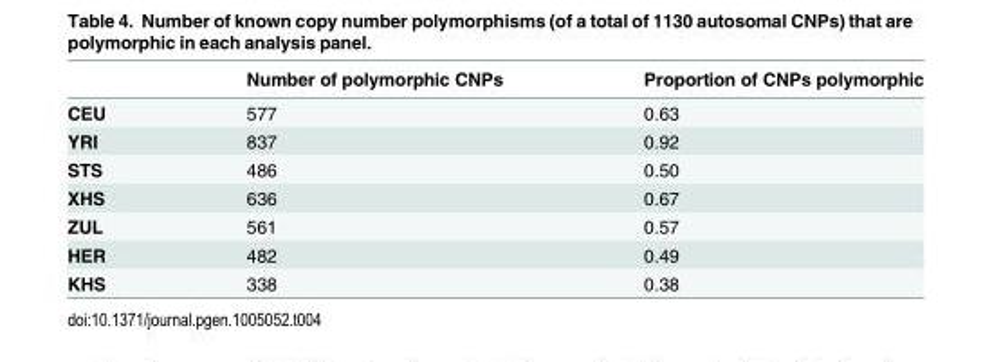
<table><thead><tr><td></td><td>Number of polymorphic CNPs</td><td>Proportion of CNPs polymorphic</td></tr></thead><tbody><tr><td>CEU</td><td>577</td><td>0.63</td></tr><tr><td>YRI</td><td>837</td><td>0.92</td></tr><tr><td>STS</td><td>486</td><td>0.50</td></tr><tr><td>XHS</td><td>636</td><td>0.67</td></tr><tr><td>ZUL</td><td>561</td><td>0.57</td></tr><tr><td>HER</td><td>482</td><td>0.49</td></tr><tr><td>KHS</td><td>338</td><td>0.38</td></tr></tbody></table>